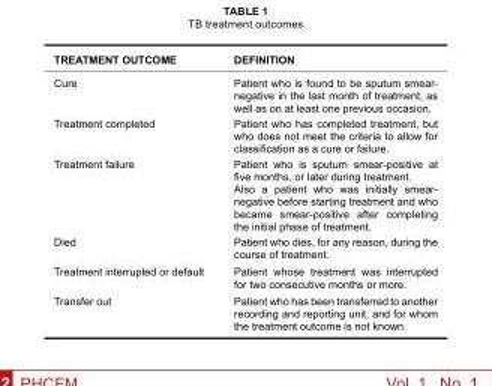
<table><thead><tr><td>TrEATmEnT ouTcomE</td><td>DEfiniTion</td></tr></thead><tbody><tr><td>Cure</td><td>Patient who is found to be sputum smear- negative in the last month of treatment, as well as on at least one previous occasion.</td></tr><tr><td>Treatment completed</td><td>Patient who has completed treatment, but who does not meet the criteria to allow for classification as a cure or failure.</td></tr><tr><td>Treatment failure</td><td>Patient who is sputum smear-positive at five months, or later during treatment. Also a patient who was initially smear- negative before starting treatment and who became smear-positive after completing the initial phase of treatment.</td></tr><tr><td>Died</td><td>Patient who dies, for any reason, during the course of treatment.</td></tr><tr><td>Treatment interrupted or default</td><td>Patient whose treatment was interrupted for two consecutive months or more.</td></tr><tr><td>Transfer out</td><td>Patient who has been transferred to another recording and reporting unit, and for whom the treatment outcome is not known.</td></tr></tbody></table>